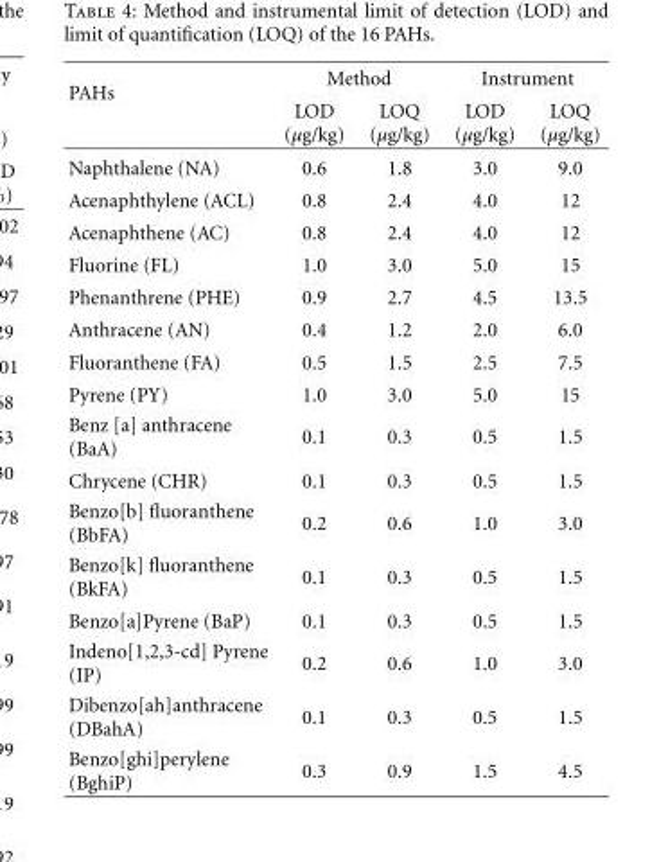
<table><thead><tr><td rowspan="2">PAHs</td><td colspan="2">Method</td><td colspan="2">Instrument</td></tr><tr><td>LOD (μg/kg)</td><td>LOQ (μg/kg)</td><td>LOD (μg/kg)</td><td>LOQ (μg/kg)</td></tr></thead><tbody><tr><td>Naphthalene (NA)</td><td>0.6</td><td>1.8</td><td>3.0</td><td>9.0</td></tr><tr><td>Acenaphthylene (ACL)</td><td>0.8</td><td>2.4</td><td>4.0</td><td>12</td></tr><tr><td>Acenaphthene (AC)</td><td>0.8</td><td>2.4</td><td>4.0</td><td>12</td></tr><tr><td>Fluorine (FL)</td><td>1.0</td><td>3.0</td><td>5.0</td><td>15</td></tr><tr><td>Phenanthrene (PHE)</td><td>0.9</td><td>2.7</td><td>4.5</td><td>13.5</td></tr><tr><td>Anthracene (AN)</td><td>0.4</td><td>1.2</td><td>2.0</td><td>6.0</td></tr><tr><td>Fluoranthene (FA)</td><td>0.5</td><td>1.5</td><td>2.5</td><td>7.5</td></tr><tr><td>Pyrene (PY)</td><td>1.0</td><td>3.0</td><td>5.0</td><td>15</td></tr><tr><td>Benz [a] anthracene (BaA)</td><td>0.1</td><td>0.3</td><td>0.5</td><td>1.5</td></tr><tr><td>Chrycene (CHR)</td><td>0.1</td><td>0.3</td><td>0.5</td><td>1.5</td></tr><tr><td>Benzo[b] fluoranthene (BbFA)</td><td>0.2</td><td>0.6</td><td>1.0</td><td>3.0</td></tr><tr><td>Benzo[k] fluoranthene (BkFA)</td><td>0.1</td><td>0.3</td><td>0.5</td><td>1.5</td></tr><tr><td>Benzo[a]Pyrene (BaP)</td><td>0.1</td><td>0.3</td><td>0.5</td><td>1.5</td></tr><tr><td>Indeno[1,2,3-cd] Pyrene (IP)</td><td>0.2</td><td>0.6</td><td>1.0</td><td>3.0</td></tr><tr><td>Dibenzo[ah]anthracene (DBahA)</td><td>0.1</td><td>0.3</td><td>0.5</td><td>1.5</td></tr><tr><td>Benzo[ghi]perylene (BghiP)</td><td>0.3</td><td>0.9</td><td>1.5</td><td>4.5</td></tr></tbody></table>